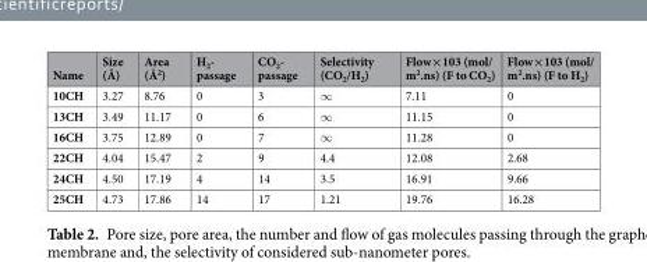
<table><thead><tr><td>Name</td><td>Size (Å)</td><td>Area (Å<sup>2</sup>)</td><td>H<sub>2</sub>- passage</td><td>CO<sub>2</sub>- passage</td><td>Selectivity (CO<sub>2</sub>/H<sub>2</sub>)</td><td>Flow×103 (mol/ m<sup>2</sup>.ns) (F to CO<sub>2</sub>)</td><td>Flow×103 (mol/ m<sup>2</sup>.ns) (F to H<sub>2</sub>)</td></tr></thead><tbody><tr><td>10CH</td><td>3.27</td><td>8.76</td><td>0</td><td>3</td><td>∞</td><td>7.11</td><td>0</td></tr><tr><td>13CH</td><td>3.49</td><td>11.17</td><td>0</td><td>6</td><td>∞</td><td>11.15</td><td>0</td></tr><tr><td>16CH</td><td>3.75</td><td>12.89</td><td>0</td><td>7</td><td>∞</td><td>11.28</td><td>0</td></tr><tr><td>22CH</td><td>4.04</td><td>15.47</td><td>2</td><td>9</td><td>4.4</td><td>12.08</td><td>2.68</td></tr><tr><td>24CH</td><td>4.50</td><td>17.19</td><td>4</td><td>14</td><td>3.5</td><td>16.91</td><td>9.66</td></tr><tr><td>25CH</td><td>4.73</td><td>17.86</td><td>14</td><td>17</td><td>1.21</td><td>19.76</td><td>16.28</td></tr></tbody></table>